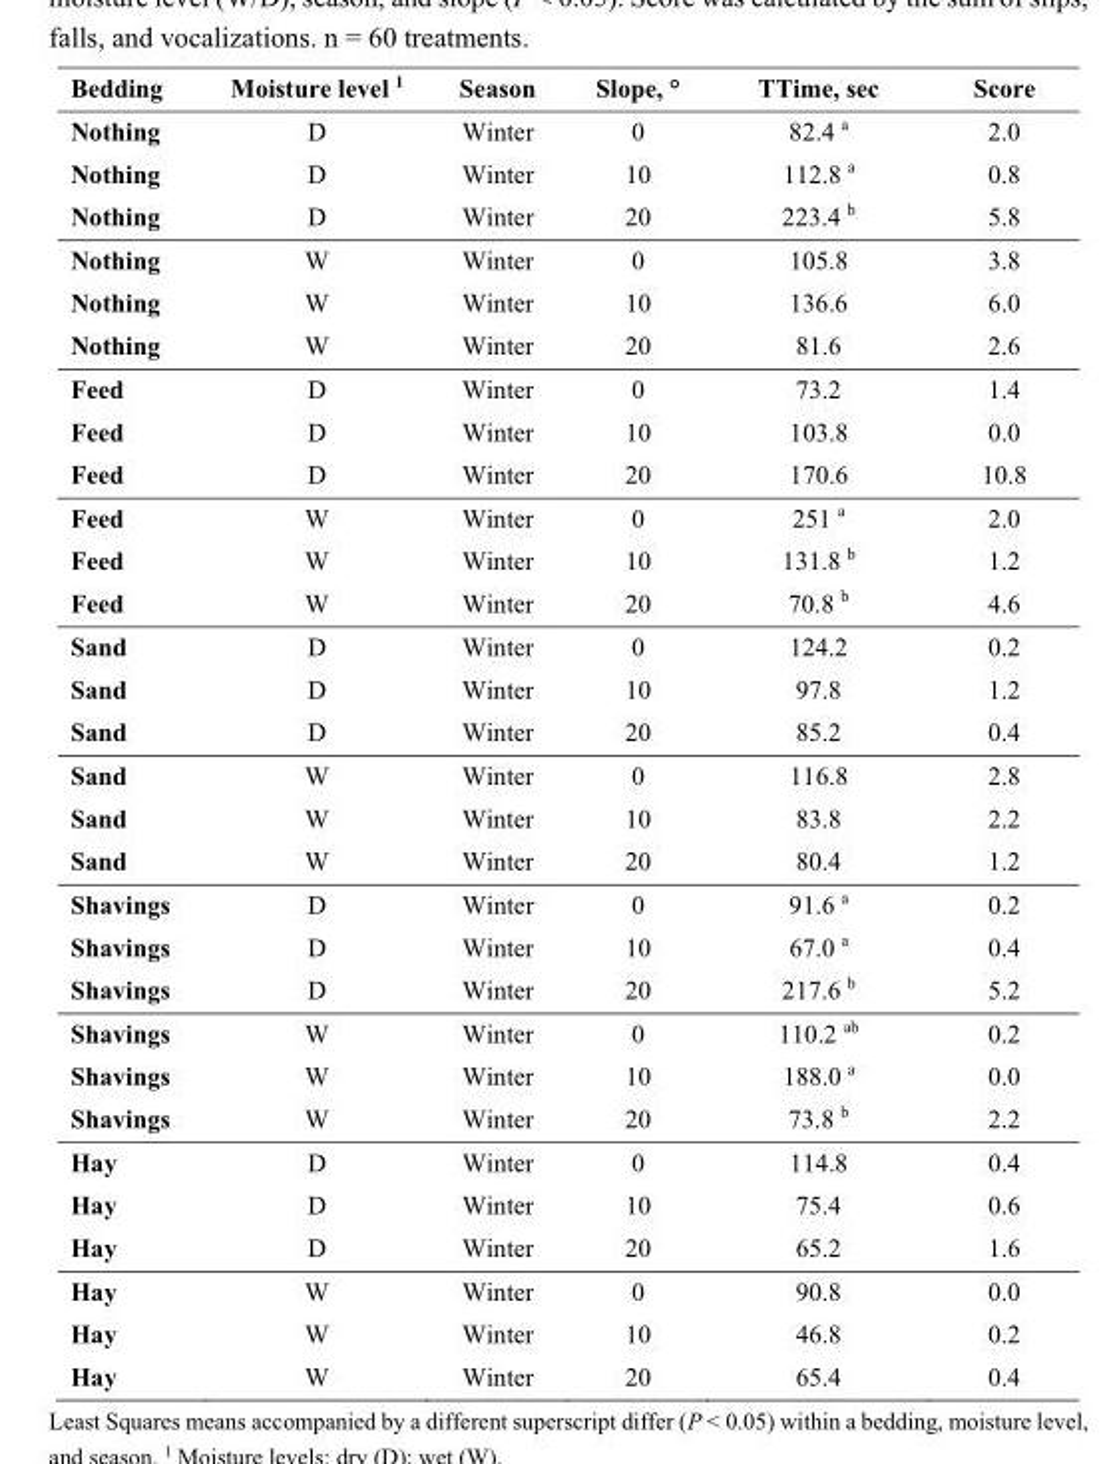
<table><thead><tr><td>Bedding</td><td>Moisture level <sup>1</sup></td><td>Season</td><td>Slope, °</td><td>TTime, sec</td><td>Score</td></tr></thead><tbody><tr><td>Nothing</td><td>D</td><td>Winter</td><td>0</td><td>82.4 <sup>a</sup></td><td>2.0</td></tr><tr><td>Nothing</td><td>D</td><td>Winter</td><td>10</td><td>112.8 <sup>a</sup></td><td>0.8</td></tr><tr><td>Nothing</td><td>D</td><td>Winter</td><td>20</td><td>223.4 <sup>b</sup></td><td>5.8</td></tr><tr><td>Nothing</td><td>W</td><td>Winter</td><td>0</td><td>105.8</td><td>3.8</td></tr><tr><td>Nothing</td><td>W</td><td>Winter</td><td>10</td><td>136.6</td><td>6.0</td></tr><tr><td>Nothing</td><td>W</td><td>Winter</td><td>20</td><td>81.6</td><td>2.6</td></tr><tr><td>Feed</td><td>D</td><td>Winter</td><td>0</td><td>73.2</td><td>1.4</td></tr><tr><td>Feed</td><td>D</td><td>Winter</td><td>10</td><td>103.8</td><td>0.0</td></tr><tr><td>Feed</td><td>D</td><td>Winter</td><td>20</td><td>170.6</td><td>10.8</td></tr><tr><td>Feed</td><td>W</td><td>Winter</td><td>0</td><td>251 <sup>a</sup></td><td>2.0</td></tr><tr><td>Feed</td><td>W</td><td>Winter</td><td>10</td><td>131.8 <sup>b</sup></td><td>1.2</td></tr><tr><td>Feed</td><td>W</td><td>Winter</td><td>20</td><td>70.8 <sup>b</sup></td><td>4.6</td></tr><tr><td>Sand</td><td>D</td><td>Winter</td><td>0</td><td>124.2</td><td>0.2</td></tr><tr><td>Sand</td><td>D</td><td>Winter</td><td>10</td><td>97.8</td><td>1.2</td></tr><tr><td>Sand</td><td>D</td><td>Winter</td><td>20</td><td>85.2</td><td>0.4</td></tr><tr><td>Sand</td><td>W</td><td>Winter</td><td>0</td><td>116.8</td><td>2.8</td></tr><tr><td>Sand</td><td>W</td><td>Winter</td><td>10</td><td>83.8</td><td>2.2</td></tr><tr><td>Sand</td><td>W</td><td>Winter</td><td>20</td><td>80.4</td><td>1.2</td></tr><tr><td>Shavings</td><td>D</td><td>Winter</td><td>0</td><td>91.6 <sup>a</sup></td><td>0.2</td></tr><tr><td>Shavings</td><td>D</td><td>Winter</td><td>10</td><td>67.0 <sup>a</sup></td><td>0.4</td></tr><tr><td>Shavings</td><td>D</td><td>Winter</td><td>20</td><td>217.6 <sup>b</sup></td><td>5.2</td></tr><tr><td>Shavings</td><td>W</td><td>Winter</td><td>0</td><td>110.2 <sup>ab</sup></td><td>0.2</td></tr><tr><td>Shavings</td><td>W</td><td>Winter</td><td>10</td><td>188.0 <sup>a</sup></td><td>0.0</td></tr><tr><td>Shavings</td><td>W</td><td>Winter</td><td>20</td><td>73.8 <sup>b</sup></td><td>2.2</td></tr><tr><td>Hay</td><td>D</td><td>Winter</td><td>0</td><td>114.8</td><td>0.4</td></tr><tr><td>Hay</td><td>D</td><td>Winter</td><td>10</td><td>75.4</td><td>0.6</td></tr><tr><td>Hay</td><td>D</td><td>Winter</td><td>20</td><td>65.2</td><td>1.6</td></tr><tr><td>Hay</td><td>W</td><td>Winter</td><td>0</td><td>90.8</td><td>0.0</td></tr><tr><td>Hay</td><td>W</td><td>Winter</td><td>10</td><td>46.8</td><td>0.2</td></tr><tr><td>Hay</td><td>W</td><td>Winter</td><td>20</td><td>65.4</td><td>0.4</td></tr></tbody></table>